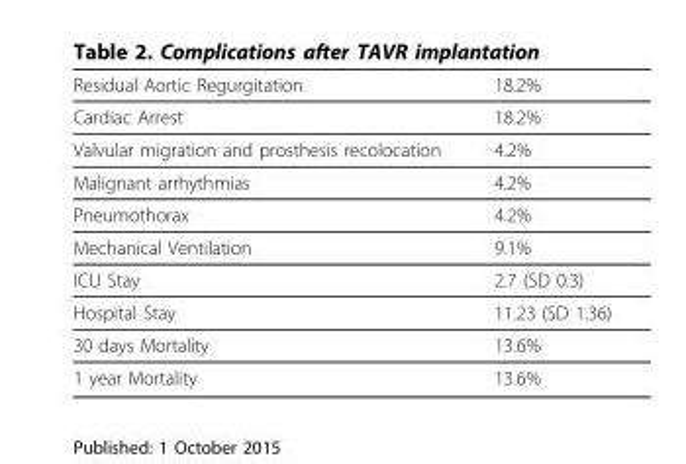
<table><tbody><tr><td>Residual Aortic Regurgitation</td><td>18.2%</td></tr><tr><td>Cardiac Arrest</td><td>18.2%</td></tr><tr><td>Valvular migration and prosthesis recolocation</td><td>4.2%</td></tr><tr><td>Malignant arrhythmias</td><td>4.2%</td></tr><tr><td>Pneumothorax</td><td>4.2%</td></tr><tr><td>Mechanical Ventilation</td><td>9.1%</td></tr><tr><td>ICU Stay</td><td>2.7 (SD 0.3)</td></tr><tr><td>Hospital Stay</td><td>11.23 (SD 1.36)</td></tr><tr><td>30 days Mortality</td><td>13.6%</td></tr><tr><td>1 year Mortality</td><td>13.6%</td></tr></tbody></table>